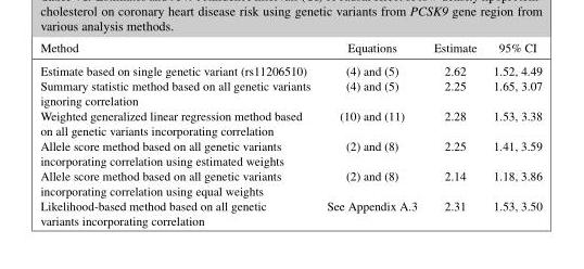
<table><thead><tr><td>Method</td><td>Equations</td><td>Estimate</td><td>95% CI</td></tr></thead><tbody><tr><td>Estimate based on single genetic variant (rs11206510)</td><td>(4) and (5)</td><td>2.62</td><td>1.52, 4.49</td></tr><tr><td>Summary statistic method based on all genetic variants</td><td>(4) and (5)</td><td>2.25</td><td>1.65, 3.07</td></tr><tr><td colspan="4">ignoring correlation</td></tr><tr><td>Weighted generalized linear regression method based</td><td>(10) and (11)</td><td>2.28</td><td>1.53, 3.38</td></tr><tr><td colspan="4">on all genetic variants incorporating correlation</td></tr><tr><td>Allele score method based on all genetic variants</td><td>(2) and (8)</td><td>2.25</td><td>1.41, 3.59</td></tr><tr><td colspan="4">incorporating correlation using estimated weights</td></tr><tr><td>Allele score method based on all genetic variants</td><td>(2) and (8)</td><td>2.14</td><td>1.18, 3.86</td></tr><tr><td colspan="4">incorporating correlation using equal weights</td></tr><tr><td>Likelihood-based method based on all genetic</td><td>See Appendix A.3</td><td>2.31</td><td>1.53, 3.50</td></tr><tr><td>variants incorporating correlation</td><td></td><td></td><td></td></tr></tbody></table>